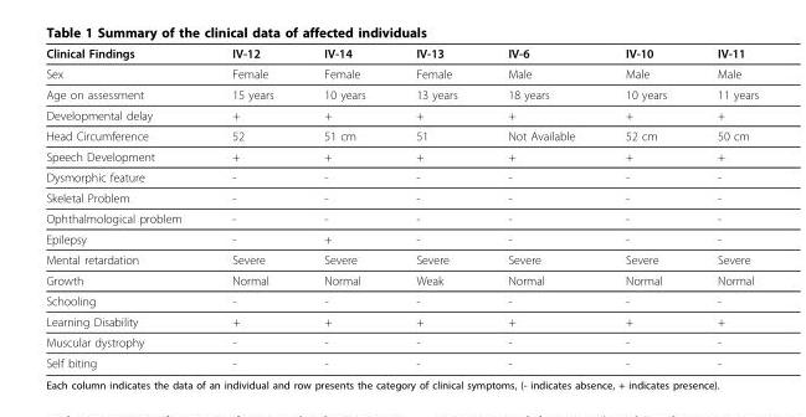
<table><thead><tr><td>Clinical Findings</td><td>IV-12</td><td>IV-14</td><td>IV-13</td><td>IV-6</td><td>IV-10</td><td>IV-11</td></tr></thead><tbody><tr><td>Sex</td><td>Female</td><td>Female</td><td>Female</td><td>Male</td><td>Male</td><td>Male</td></tr><tr><td>Age on assessment</td><td>15 years</td><td>10 years</td><td>13 years</td><td>18 years</td><td>10 years</td><td>11 years</td></tr><tr><td>Developmental delay</td><td>+</td><td>+</td><td>+</td><td>+</td><td>+</td><td>+</td></tr><tr><td>Head Circumference</td><td>52</td><td>51 cm</td><td>51</td><td>Not Available</td><td>52 cm</td><td>50 cm</td></tr><tr><td>Speech Development</td><td>+</td><td>+</td><td>+</td><td>+</td><td>+</td><td>+</td></tr><tr><td>Dysmorphic feature</td><td>-</td><td>-</td><td>-</td><td>-</td><td>-</td><td>-</td></tr><tr><td>Skeletal Problem</td><td>-</td><td>-</td><td>-</td><td>-</td><td>-</td><td>-</td></tr><tr><td>Ophthalmological problem</td><td>-</td><td>-</td><td>-</td><td>-</td><td>-</td><td>-</td></tr><tr><td>Epilepsy</td><td>-</td><td>+</td><td>-</td><td>-</td><td>-</td><td>-</td></tr><tr><td>Mental retardation</td><td>Severe</td><td>Severe</td><td>Severe</td><td>Severe</td><td>Severe</td><td>Severe</td></tr><tr><td>Growth</td><td>Normal</td><td>Normal</td><td>Weak</td><td>Normal</td><td>Normal</td><td>Normal</td></tr><tr><td>Schooling</td><td>-</td><td>-</td><td>-</td><td>-</td><td>-</td><td>-</td></tr><tr><td>Learning Disability</td><td>+</td><td>+</td><td>+</td><td>+</td><td>+</td><td>+</td></tr><tr><td>Muscular dystrophy</td><td>-</td><td>-</td><td>-</td><td>-</td><td>-</td><td>-</td></tr><tr><td>Self biting</td><td>-</td><td>-</td><td>-</td><td>-</td><td>-</td><td>-</td></tr></tbody></table>